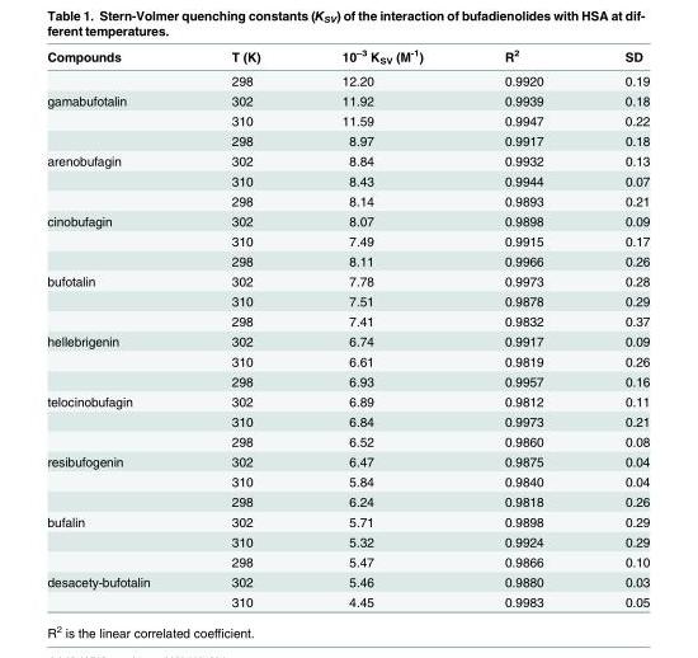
<table><thead><tr><td>Compounds</td><td>T (K)</td><td>10<sup>–3</sup> K<sub>SV</sub> (M<sup>-1</sup>)</td><td>R<sup>2</sup></td><td>SD</td></tr></thead><tbody><tr><td></td><td>298</td><td>12.20</td><td>0.9920</td><td>0.19</td></tr><tr><td rowspan="3">gamabufotalin</td><td>302</td><td>11.92</td><td>0.9939</td><td>0.18</td></tr><tr><td>310</td><td>11.59</td><td>0.9947</td><td>0.22</td></tr><tr><td>298</td><td>8.97</td><td>0.9917</td><td>0.18</td></tr><tr><td rowspan="3">arenobufagin</td><td>302</td><td>8.84</td><td>0.9932</td><td>0.13</td></tr><tr><td>310</td><td>8.43</td><td>0.9944</td><td>0.07</td></tr><tr><td>298</td><td>8.14</td><td>0.9893</td><td>0.21</td></tr><tr><td rowspan="3">cinobufagin</td><td>302</td><td>8.07</td><td>0.9898</td><td>0.09</td></tr><tr><td>310</td><td>7.49</td><td>0.9915</td><td>0.17</td></tr><tr><td>298</td><td>8.11</td><td>0.9966</td><td>0.26</td></tr><tr><td rowspan="3">bufotalin</td><td>302</td><td>7.78</td><td>0.9973</td><td>0.28</td></tr><tr><td>310</td><td>7.51</td><td>0.9878</td><td>0.29</td></tr><tr><td>298</td><td>7.41</td><td>0.9832</td><td>0.37</td></tr><tr><td rowspan="3">hellebrigenin</td><td>302</td><td>6.74</td><td>0.9917</td><td>0.09</td></tr><tr><td>310</td><td>6.61</td><td>0.9819</td><td>0.26</td></tr><tr><td>298</td><td>6.93</td><td>0.9957</td><td>0.16</td></tr><tr><td rowspan="3">telocinobufagin</td><td>302</td><td>6.89</td><td>0.9812</td><td>0.11</td></tr><tr><td>310</td><td>6.84</td><td>0.9973</td><td>0.21</td></tr><tr><td>298</td><td>6.52</td><td>0.9860</td><td>0.08</td></tr><tr><td rowspan="3">resibufogenin</td><td>302</td><td>6.47</td><td>0.9875</td><td>0.04</td></tr><tr><td>310</td><td>5.84</td><td>0.9840</td><td>0.04</td></tr><tr><td>298</td><td>6.24</td><td>0.9818</td><td>0.26</td></tr><tr><td rowspan="3">bufalin</td><td>302</td><td>5.71</td><td>0.9898</td><td>0.29</td></tr><tr><td>310</td><td>5.32</td><td>0.9924</td><td>0.29</td></tr><tr><td>298</td><td>5.47</td><td>0.9866</td><td>0.10</td></tr><tr><td rowspan="2">desacety-bufotalin</td><td>302</td><td>5.46</td><td>0.9880</td><td>0.03</td></tr><tr><td>310</td><td>4.45</td><td>0.9983</td><td>0.05</td></tr></tbody></table>